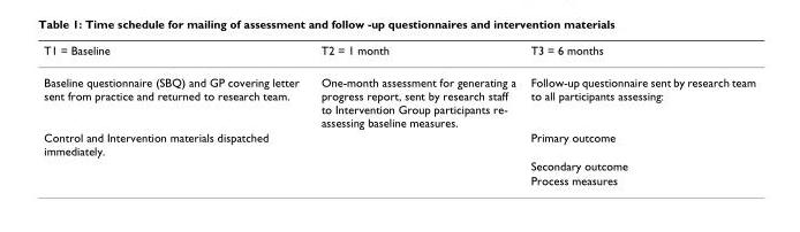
<table><thead><tr><td>T1 = Baseline</td><td>T2 = 1 month</td><td>T3 = 6 months</td></tr></thead><tbody><tr><td>Baseline questionnaire (SBQ) and GP covering letter sent from practice and returned to research team.</td><td>One-month assessment for generating a progress report, sent by research staff to Intervention Group participants re- assessing baseline measures.</td><td>Follow-up questionnaire sent by research team to all participants assessing:</td></tr><tr><td rowspan="3">Control and Intervention materials dispatched immediately.</td><td></td><td>Primary outcome</td></tr><tr><td></td><td>Secondary outcome</td></tr><tr><td></td><td>Process measures</td></tr></tbody></table>